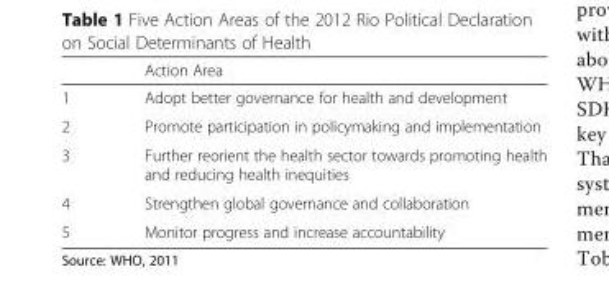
<table><thead><tr><td></td><td>Action Area</td></tr></thead><tbody><tr><td>1</td><td>Adopt better governance for health and development</td></tr><tr><td>2</td><td>Promote participation in policymaking and implementation</td></tr><tr><td>3</td><td>Further reorient the health sector towards promoting health and reducing health inequities</td></tr><tr><td>4</td><td>Strengthen global governance and collaboration</td></tr><tr><td>5</td><td>Monitor progress and increase accountability</td></tr></tbody></table>